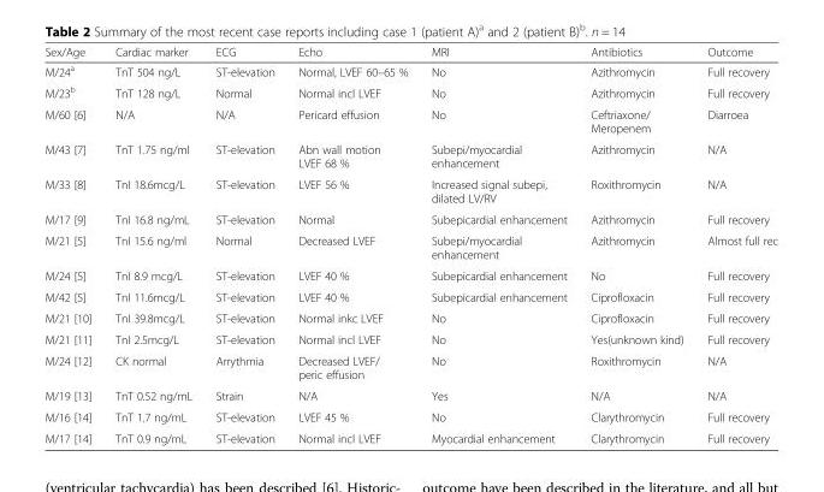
<table><thead><tr><td>Sex/Age</td><td>Cardiac marker</td><td>ECG</td><td>Echo</td><td>MRI</td><td>Antibiotics</td><td>Outcome</td></tr></thead><tbody><tr><td>M/24<sup>a</sup></td><td>TnT 504 ng/L</td><td>ST-elevation</td><td>Normal, LVEF 60–65 %</td><td>No</td><td>Azithromycin</td><td>Full recovery</td></tr><tr><td>M/23<sup>b</sup></td><td>TnT 128 ng/L</td><td>Normal</td><td>Normal incl LVEF</td><td>No</td><td>Azithromycin</td><td>Full recovery</td></tr><tr><td>M/60 [6]</td><td>N/A</td><td>N/A</td><td>Pericard effusion</td><td>No</td><td>Ceftriaxone/ Meropenem</td><td>Diarroea</td></tr><tr><td>M/43 [7]</td><td>TnT 1.75 ng/ml</td><td>ST-elevation</td><td>Abn wall motion LVEF 68 %</td><td>Subepi/myocardial enhancement</td><td>Azithromycin</td><td>N/A</td></tr><tr><td>M/33 [8]</td><td>TnI 18.6mcg/L</td><td>ST-elevation</td><td>LVEF 56 %</td><td>Increased signal subepi, dilated LV/RV</td><td>Roxithromycin</td><td>N/A</td></tr><tr><td>M/17 [9]</td><td>TnI 16.8 ng/mL</td><td>ST-elevation</td><td>Normal</td><td>Subepicardial enhancement</td><td>Azithromycin</td><td>Full recovery</td></tr><tr><td>M/21 [5]</td><td>TnI 15.6 ng/ml</td><td>Normal</td><td>Decreased LVEF</td><td>Subepi/myocardial enhancement</td><td>Azithromycin</td><td>Almost full rec</td></tr><tr><td>M/24 [5]</td><td>TnI 8.9 mcg/L</td><td>ST-elevation</td><td>LVEF 40 %</td><td>Subepicardial enhancement</td><td>No</td><td>Full recovery</td></tr><tr><td>M/42 [5]</td><td>TnI 11.6mcg/L</td><td>ST-elevation</td><td>LVEF 40 %</td><td>Subepicardial enhancement</td><td>Ciprofloxacin</td><td>Full recovery</td></tr><tr><td>M/21 [10]</td><td>TnI 39.8mcg/L</td><td>ST-elevation</td><td>Normal inkc LVEF</td><td>No</td><td>Ciprofloxacin</td><td>Full recovery</td></tr><tr><td>M/21 [11]</td><td>TnI 2.5mcg/L</td><td>ST-elevation</td><td>Normal incl LVEF</td><td>No</td><td>Yes(unknown kind)</td><td>Full recovery</td></tr><tr><td>M/24 [12]</td><td>CK normal</td><td>Arrythmia</td><td>Decreased LVEF/ peric effusion</td><td>No</td><td>Roxithromycin</td><td>N/A</td></tr><tr><td>M/19 [13]</td><td>TnT 0.52 ng/mL</td><td>Strain</td><td>N/A</td><td>Yes</td><td>N/A</td><td>N/A</td></tr><tr><td>M/16 [14]</td><td>TnT 1.7 ng/mL</td><td>ST-elevation</td><td>LVEF 45 %</td><td>No</td><td>Clarythromycin</td><td>Full recovery</td></tr><tr><td>M/17 [14]</td><td>TnT 0.9 ng/mL</td><td>ST-elevation</td><td>Normal incl LVEF</td><td>Myocardial enhancement</td><td>Clarythromycin</td><td>Full recovery</td></tr></tbody></table>